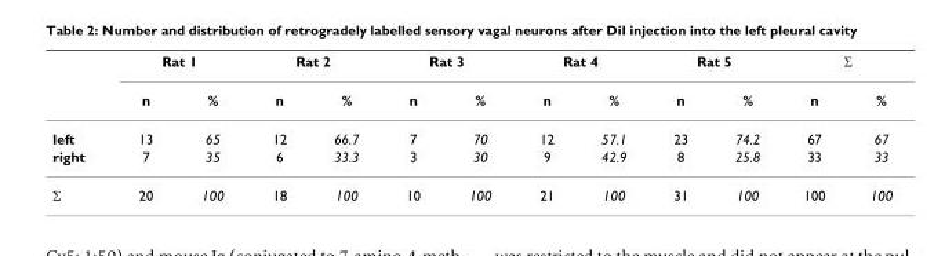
<table><thead><tr><td rowspan="2"></td><td colspan="2">Rat 1</td><td colspan="2">Rat 2</td><td colspan="2">Rat 3</td><td colspan="2">Rat 4</td><td colspan="2">Rat 5</td><td colspan="2">Σ</td></tr><tr><td>n</td><td>%</td><td>n</td><td>%</td><td>n</td><td>%</td><td>n</td><td>%</td><td>n</td><td>%</td><td>n</td><td>%</td></tr></thead><tbody><tr><td>left</td><td>13</td><td>65</td><td>12</td><td>66.7</td><td>7</td><td>70</td><td>12</td><td>57.1</td><td>23</td><td>74.2</td><td>67</td><td>67</td></tr><tr><td>right</td><td>7</td><td>35</td><td>6</td><td>33.3</td><td>3</td><td>30</td><td>9</td><td>42.9</td><td>8</td><td>25.8</td><td>33</td><td>33</td></tr><tr><td>Σ</td><td>20</td><td>100</td><td>18</td><td>100</td><td>10</td><td>100</td><td>21</td><td>100</td><td>31</td><td>100</td><td>100</td><td>100</td></tr></tbody></table>